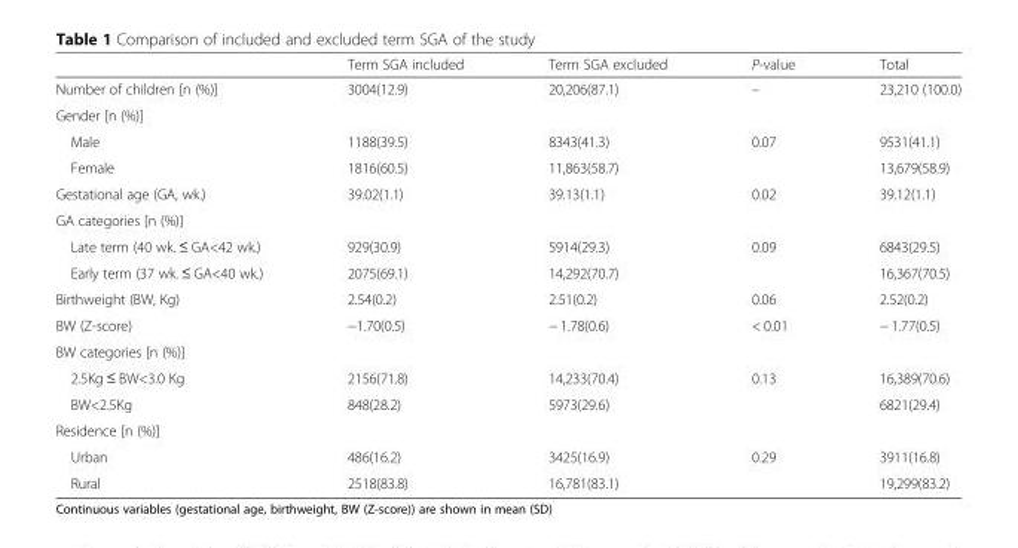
<table><thead><tr><td></td><td>Term SGA included</td><td>Term SGA excluded</td><td>P-value</td><td>Total</td></tr></thead><tbody><tr><td>Number of children [n (%)]</td><td>3004(12.9)</td><td>20,206(87.1)</td><td>–</td><td>23,210 (100.0)</td></tr><tr><td colspan="5">Gender [n (%)]</td></tr><tr><td>Male</td><td>1188(39.5)</td><td>8343(41.3)</td><td>0.07</td><td>9531(41.1)</td></tr><tr><td>Female</td><td>1816(60.5)</td><td>11,863(58.7)</td><td></td><td>13,679(58.9)</td></tr><tr><td>Gestational age (GA, wk.)</td><td>39.02(1.1)</td><td>39.13(1.1)</td><td>0.02</td><td>39.12(1.1)</td></tr><tr><td colspan="5">GA categories [n (%)]</td></tr><tr><td>Late term (40 wk. ≤ GA&lt;42 wk.)</td><td>929(30.9)</td><td>5914(29.3)</td><td>0.09</td><td>6843(29.5)</td></tr><tr><td>Early term (37 wk. ≤ GA&lt;40 wk.)</td><td>2075(69.1)</td><td>14,292(70.7)</td><td></td><td>16,367(70.5)</td></tr><tr><td>Birthweight (BW, Kg)</td><td>2.54(0.2)</td><td>2.51(0.2)</td><td>0.06</td><td>2.52(0.2)</td></tr><tr><td>BW (Z-score)</td><td>−1.70(0.5)</td><td>− 1.78(0.6)</td><td>&lt; 0.01</td><td>− 1.77(0.5)</td></tr><tr><td colspan="5">BW categories [n (%)]</td></tr><tr><td>2.5Kg ≤ BW&lt;3.0 Kg</td><td>2156(71.8)</td><td>14,233(70.4)</td><td>0.13</td><td>16,389(70.6)</td></tr><tr><td>BW&lt;2.5Kg</td><td>848(28.2)</td><td>5973(29.6)</td><td></td><td>6821(29.4)</td></tr><tr><td colspan="5">Residence [n (%)]</td></tr><tr><td>Urban</td><td>486(16.2)</td><td>3425(16.9)</td><td>0.29</td><td>3911(16.8)</td></tr><tr><td>Rural</td><td>2518(83.8)</td><td>16,781(83.1)</td><td></td><td>19,299(83.2)</td></tr></tbody></table>